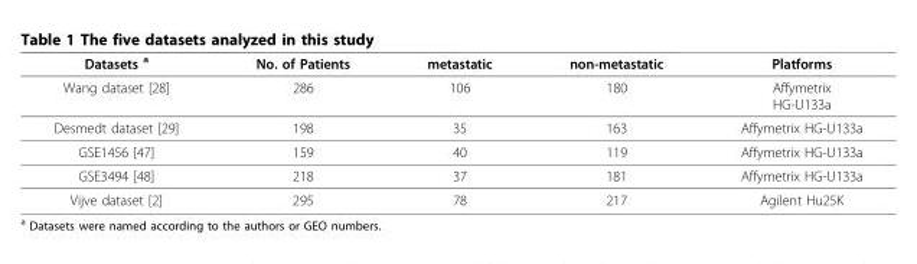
<table><thead><tr><td>Datasets <sup>a</sup></td><td>No. of Patients</td><td>metastatic</td><td>non-metastatic</td><td>Platforms</td></tr></thead><tbody><tr><td>Wang dataset [28]</td><td>286</td><td>106</td><td>180</td><td>Affymetrix HG-U133a</td></tr><tr><td>Desmedt dataset [29]</td><td>198</td><td>35</td><td>163</td><td>Affymetrix HG-U133a</td></tr><tr><td>GSE1456 [47]</td><td>159</td><td>40</td><td>119</td><td>Affymetrix HG-U133a</td></tr><tr><td>GSE3494 [48]</td><td>218</td><td>37</td><td>181</td><td>Affymetrix HG-U133a</td></tr><tr><td>Vijve dataset [2]</td><td>295</td><td>78</td><td>217</td><td>Agilent Hu25K</td></tr></tbody></table>